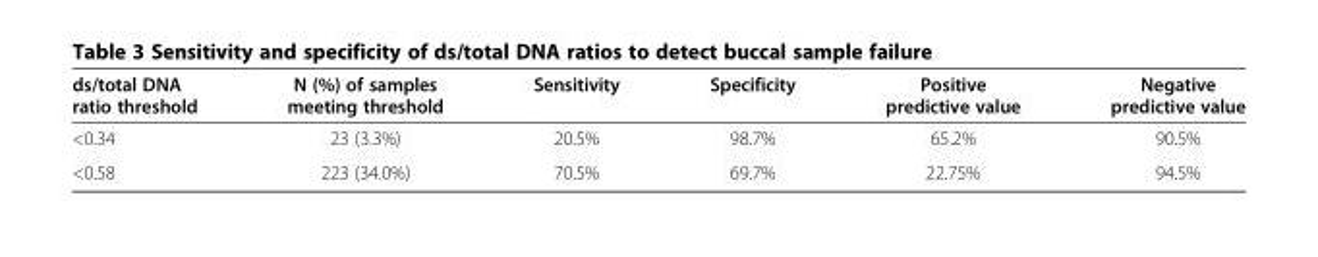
<table><thead><tr><td>ds/total DNA ratio threshold</td><td>N (%) of samples meeting threshold</td><td>Sensitivity</td><td>Specificity</td><td>Positive predictive value</td><td>Negative predictive value</td></tr></thead><tbody><tr><td>&lt;0.34</td><td>23 (3.3%)</td><td>20.5%</td><td>98.7%</td><td>65.2%</td><td>90.5%</td></tr><tr><td>&lt;0.58</td><td>223 (34.0%)</td><td>70.5%</td><td>69.7%</td><td>22.75%</td><td>94.5%</td></tr></tbody></table>